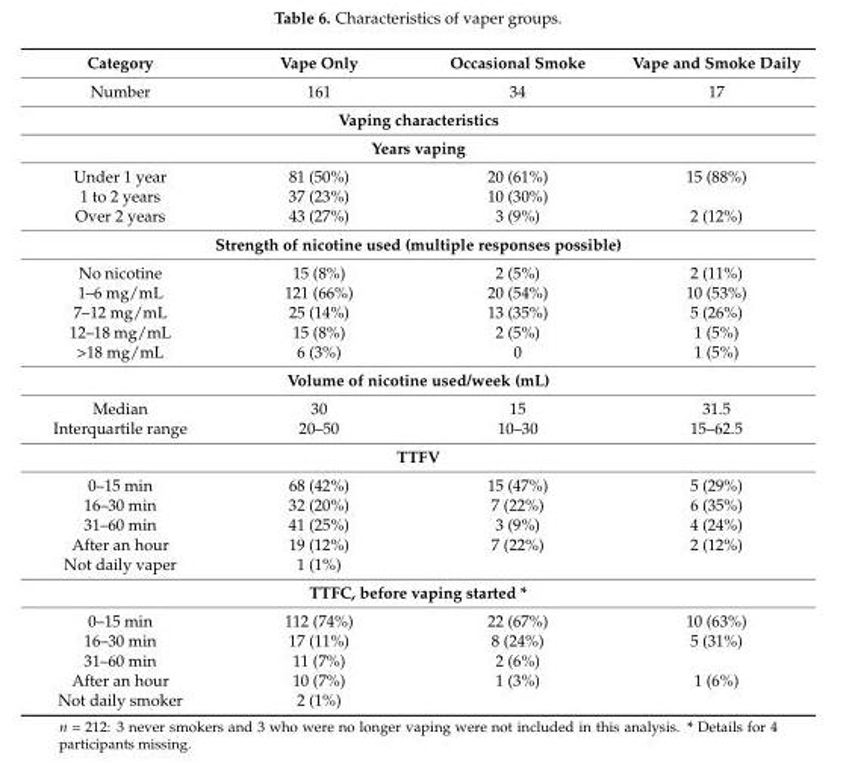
<table><thead><tr><td>Category</td><td>Vape Only</td><td>Occasional Smoke</td><td>Vape and Smoke Daily</td></tr></thead><tbody><tr><td>Number</td><td>161</td><td>34</td><td>17</td></tr><tr><td colspan="4">Vaping characteristics</td></tr><tr><td colspan="4">Years vaping</td></tr><tr><td>Under 1 year</td><td>81 (50%)</td><td>20 (61%)</td><td>15 (88%)</td></tr><tr><td>1 to 2 years</td><td>37 (23%)</td><td>10 (30%)</td><td></td></tr><tr><td>Over 2 years</td><td>43 (27%)</td><td>3 (9%)</td><td>2 (12%)</td></tr><tr><td colspan="4">Strength of nicotine used (multiple responses possible)</td></tr><tr><td>No nicotine</td><td>15 (8%)</td><td>2 (5%)</td><td>2 (11%)</td></tr><tr><td>1–6 mg/mL</td><td>121 (66%)</td><td>20 (54%)</td><td>10 (53%)</td></tr><tr><td>7–12 mg/mL</td><td>25 (14%)</td><td>13 (35%)</td><td>5 (26%)</td></tr><tr><td>12–18 mg/mL</td><td>15 (8%)</td><td>2 (5%)</td><td>1 (5%)</td></tr><tr><td>&gt;18 mg/mL</td><td>6 (3%)</td><td>0</td><td>1 (5%)</td></tr><tr><td colspan="4">Volume of nicotine used/week (mL)</td></tr><tr><td>Median</td><td>30</td><td>15</td><td>31.5</td></tr><tr><td>Interquartile range</td><td>20–50</td><td>10–30</td><td>15–62.5</td></tr><tr><td colspan="4">TTFV</td></tr><tr><td>0–15 min</td><td>68 (42%)</td><td>15 (47%)</td><td>5 (29%)</td></tr><tr><td>16–30 min</td><td>32 (20%)</td><td>7 (22%)</td><td>6 (35%)</td></tr><tr><td>31–60 min</td><td>41 (25%)</td><td>3 (9%)</td><td>4 (24%)</td></tr><tr><td>After an hour</td><td>19 (12%)</td><td>7 (22%)</td><td>2 (12%)</td></tr><tr><td>Not daily vaper</td><td>1 (1%)</td><td></td><td></td></tr><tr><td colspan="4">TTFC, before vaping started *</td></tr><tr><td>0–15 min</td><td>112 (74%)</td><td>22 (67%)</td><td>10 (63%)</td></tr><tr><td>16–30 min</td><td>17 (11%)</td><td>8 (24%)</td><td>5 (31%)</td></tr><tr><td>31–60 min</td><td>11 (7%)</td><td>2 (6%)</td><td></td></tr><tr><td>After an hour</td><td>10 (7%)</td><td>1 (3%)</td><td>1 (6%)</td></tr><tr><td>Not daily smoker</td><td>2 (1%)</td><td></td><td></td></tr></tbody></table>